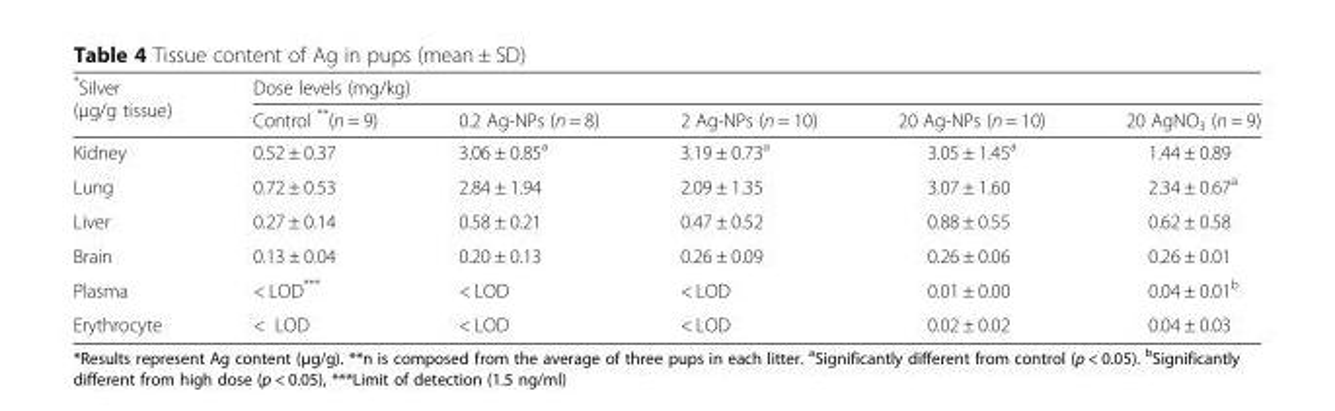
<table><thead><tr><td rowspan="2">*Silver (μg/g tissue)</td><td colspan="5">Dose levels (mg/kg)</td></tr><tr><td>Control **(n = 9)</td><td>0.2 Ag-NPs (n = 8)</td><td>2 Ag-NPs (n = 10)</td><td>20 Ag-NPs (n = 10)</td><td>20 AgNO<sub>3</sub> (n = 9)</td></tr></thead><tbody><tr><td>Kidney</td><td>0.52 ± 0.37</td><td>3.06 ± 0.85<sup>a</sup></td><td>3.19 ± 0.73<sup>a</sup></td><td>3.05 ± 1.45<sup>a</sup></td><td>1.44 ± 0.89</td></tr><tr><td>Lung</td><td>0.72 ± 0.53</td><td>2.84 ± 1.94</td><td>2.09 ± 1.35</td><td>3.07 ± 1.60</td><td>2.34 ± 0.67<sup>a</sup></td></tr><tr><td>Liver</td><td>0.27 ± 0.14</td><td>0.58 ± 0.21</td><td>0.47 ± 0.52</td><td>0.88 ± 0.55</td><td>0.62 ± 0.58</td></tr><tr><td>Brain</td><td>0.13 ± 0.04</td><td>0.20 ± 0.13</td><td>0.26 ± 0.09</td><td>0.26 ± 0.06</td><td>0.26 ± 0.01</td></tr><tr><td>Plasma</td><td>&lt; LOD***</td><td>&lt; LOD</td><td>&lt; LOD</td><td>0.01 ± 0.00</td><td>0.04 ± 0.01<sup>b</sup></td></tr><tr><td>Erythrocyte</td><td>&lt; LOD</td><td>&lt; LOD</td><td>&lt; LOD</td><td>0.02 ± 0.02</td><td>0.04 ± 0.03</td></tr></tbody></table>